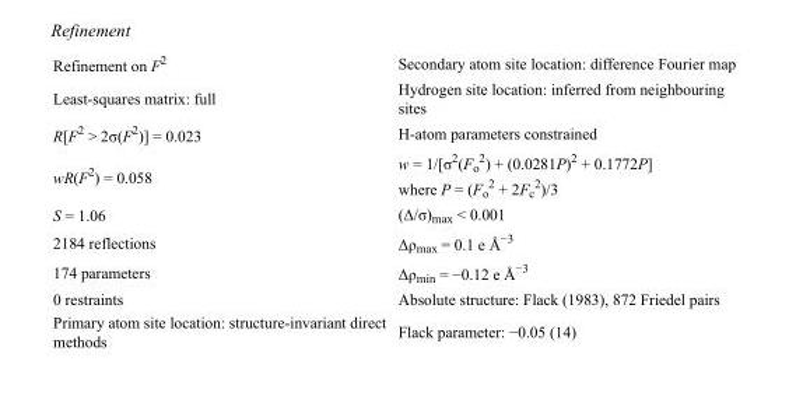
<table><tbody><tr><td>Refinement on F<sup>2</sup></td><td>Secondary atom site location: difference Fourier map</td></tr><tr><td>Least-squares matrix: full</td><td>Hydrogen site location: inferred from neighbouring sites</td></tr><tr><td>R[F<sup>2</sup> &gt; 2σ(F<sup>2</sup>)] = 0.023</td><td>H-atom parameters constrained</td></tr><tr><td>wR(F<sup>2</sup>) = 0.058</td><td>w = 1/[σ<sup>2</sup>(F<sub>o</sub> <sup>2</sup>) + (0.0281P)<sup>2</sup> + 0.1772P] where P = (F<sub>o</sub> <sup>2</sup> + 2F<sub>c</sub> <sup>2</sup>)/3</td></tr><tr><td>S = 1.06</td><td>(Δ/σ)<sub>max</sub> &lt; 0.001</td></tr><tr><td>2184 reflections</td><td>Δρ<sub>max</sub> = 0.1 e Å<sup>−3</sup></td></tr><tr><td>174 parameters</td><td>Δρ<sub>min</sub> = −0.12 e Å<sup>−3</sup></td></tr><tr><td>0 restraints</td><td>Absolute structure: Flack (1983), 872 Friedel pairs</td></tr><tr><td>Primary atom site location: structure-invariant direct methods</td><td>Flack parameter: −0.05 (14)</td></tr></tbody></table>